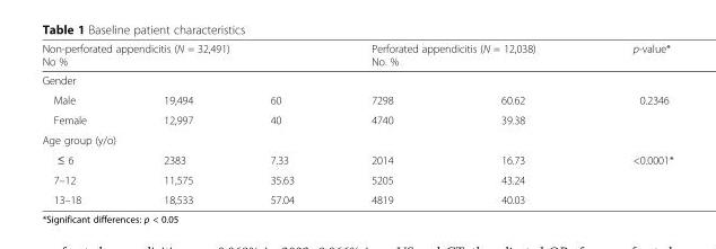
<table><thead><tr><td colspan="3">Non-perforated appendicitis (N = 32,491) No %</td><td colspan="2">Perforated appendicitis (N = 12,038) No. %</td><td>p-value*</td></tr><tr><td colspan="6">Gender</td></tr><tr><td>Male</td><td>19,494</td><td>60</td><td>7298</td><td>60.62</td><td>0.2346</td></tr></thead><tbody><tr><td>Female</td><td>12,997</td><td>40</td><td>4740</td><td>39.38</td><td></td></tr><tr><td colspan="6">Age group (y/o)</td></tr><tr><td>≤ 6</td><td>2383</td><td>7.33</td><td>2014</td><td>16.73</td><td>&lt;0.0001*</td></tr><tr><td>7–12</td><td>11,575</td><td>35.63</td><td>5205</td><td>43.24</td><td></td></tr><tr><td>13–18</td><td>18,533</td><td>57.04</td><td>4819</td><td>40.03</td><td></td></tr></tbody></table>